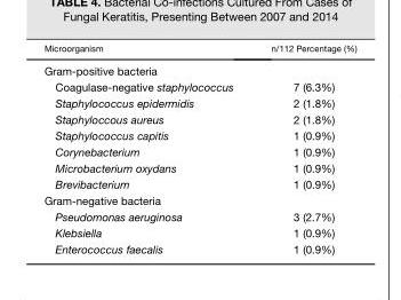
<table><thead><tr><td>Microorganism</td><td>n/112 Percentage (%)</td></tr></thead><tbody><tr><td colspan="2">Gram-positive bacteria</td></tr><tr><td>Coagulase-negative staphylococcus</td><td>7 (6.3%)</td></tr><tr><td>Staphylococcus epidermidis</td><td>2 (1.8%)</td></tr><tr><td>Staphyloccous aureus</td><td>2 (1.8%)</td></tr><tr><td>Staphylococcus capitis</td><td>1 (0.9%)</td></tr><tr><td>Corynebacterium</td><td>1 (0.9%)</td></tr><tr><td>Microbacterium oxydans</td><td>1 (0.9%)</td></tr><tr><td>Brevibacterium</td><td>1 (0.9%)</td></tr><tr><td colspan="2">Gram-negative bacteria</td></tr><tr><td>Pseudomonas aeruginosa</td><td>3 (2.7%)</td></tr><tr><td>Klebsiella</td><td>1 (0.9%)</td></tr><tr><td>Enterococcus faecalis</td><td>1 (0.9%)</td></tr></tbody></table>